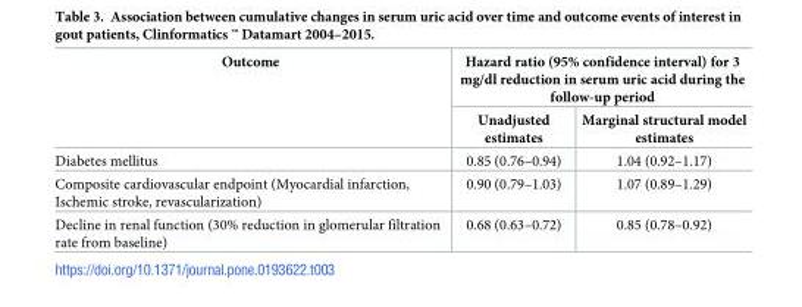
<table><thead><tr><td rowspan="2">Outcome</td><td colspan="2">Hazard ratio (95% confidence interval) for 3 mg/dl reduction in serum uric acid during the follow-up period</td></tr><tr><td>Unadjusted estimates</td><td>Marginal structural model estimates</td></tr></thead><tbody><tr><td>Diabetes mellitus</td><td>0.85 (0.76–0.94)</td><td>1.04 (0.92–1.17)</td></tr><tr><td>Composite cardiovascular endpoint (Myocardial infarction, Ischemic stroke, revascularization)</td><td>0.90 (0.79–1.03)</td><td>1.07 (0.89–1.29)</td></tr><tr><td>Decline in renal function (30% reduction in glomerular filtration rate from baseline)</td><td>0.68 (0.63–0.72)</td><td>0.85 (0.78–0.92)</td></tr></tbody></table>